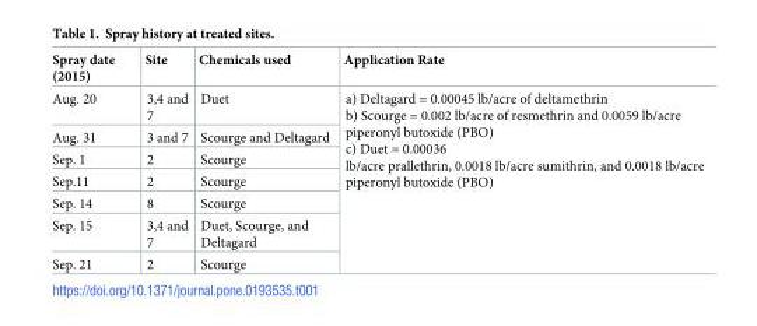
<table><thead><tr><td>Spray date (2015)</td><td>Site</td><td>Chemicals used</td><td>Application Rate</td></tr></thead><tbody><tr><td>Aug. 20</td><td>3,4 and 7</td><td>Duet</td><td rowspan="7">a) Deltagard = 0.00045 lb/acre of deltamethrin b) Scourge = 0.002 lb/acre of resmethrin and 0.0059 lb/acre piperonyl butoxide (PBO) c) Duet = 0.00036 lb/acre prallethrin, 0.0018 lb/acre sumithrin, and 0.0018 lb/acre piperonyl butoxide (PBO)</td></tr><tr><td>Aug. 31</td><td>3 and 7</td><td>Scourge and Deltagard</td></tr><tr><td>Sep. 1</td><td>2</td><td>Scourge</td></tr><tr><td>Sep.11</td><td>2</td><td>Scourge</td></tr><tr><td>Sep. 14</td><td>8</td><td>Scourge</td></tr><tr><td>Sep. 15</td><td>3,4 and 7</td><td>Duet, Scourge, and Deltagard</td></tr><tr><td>Sep. 21</td><td>2</td><td>Scourge</td></tr></tbody></table>